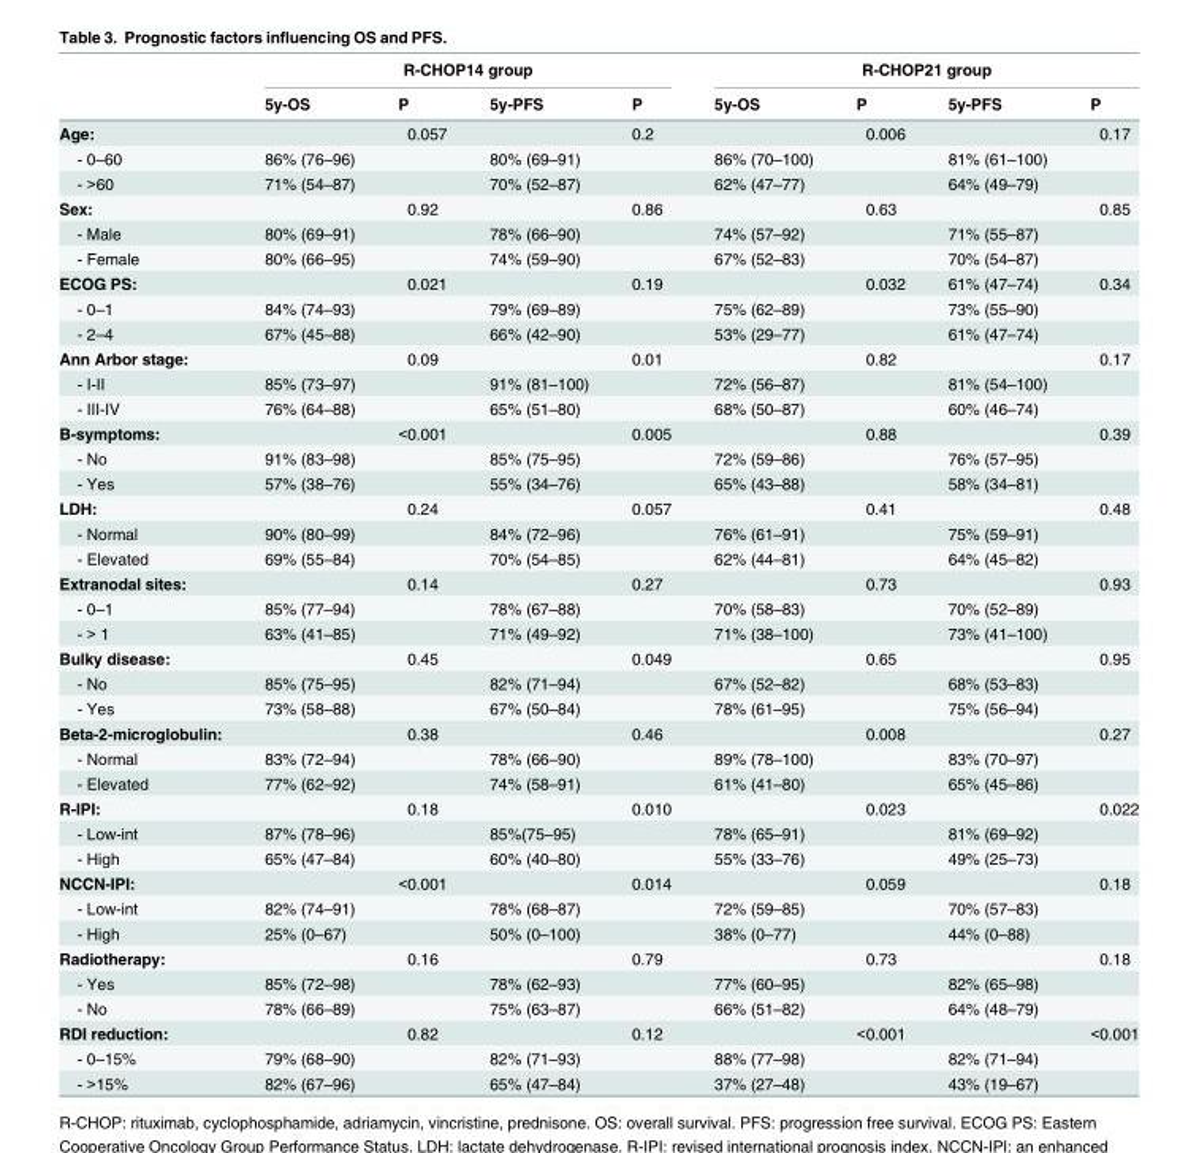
<table><thead><tr><td rowspan="2"></td><td colspan="4">R-CHOP14 group</td><td colspan="4">R-CHOP21 group</td></tr><tr><td>5y-OS</td><td>P</td><td>5y-PFS</td><td>P</td><td>5y-OS</td><td>P</td><td>5y-PFS</td><td>P</td></tr></thead><tbody><tr><td>Age:</td><td></td><td>0.057</td><td></td><td>0.2</td><td></td><td>0.006</td><td></td><td>0.17</td></tr><tr><td>- 0–60</td><td>86% (76–96)</td><td></td><td>80% (69–91)</td><td></td><td>86% (70–100)</td><td></td><td>81% (61–100)</td><td></td></tr><tr><td>- &gt;60</td><td>71% (54–87)</td><td></td><td>70% (52–87)</td><td></td><td>62% (47–77)</td><td></td><td>64% (49–79)</td><td></td></tr><tr><td>Sex:</td><td></td><td>0.92</td><td></td><td>0.86</td><td></td><td>0.63</td><td></td><td>0.85</td></tr><tr><td>- Male</td><td>80% (69–91)</td><td></td><td>78% (66–90)</td><td></td><td>74% (57–92)</td><td></td><td>71% (55–87)</td><td></td></tr><tr><td>- Female</td><td>80% (66–95)</td><td></td><td>74% (59–90)</td><td></td><td>67% (52–83)</td><td></td><td>70% (54–87)</td><td></td></tr><tr><td>ECOG PS:</td><td></td><td>0.021</td><td></td><td>0.19</td><td></td><td>0.032</td><td>61% (47–74)</td><td>0.34</td></tr><tr><td>- 0–1</td><td>84% (74–93)</td><td></td><td>79% (69–89)</td><td></td><td>75% (62–89)</td><td></td><td>73% (55–90)</td><td></td></tr><tr><td>- 2–4</td><td>67% (45–88)</td><td></td><td>66% (42–90)</td><td></td><td>53% (29–77)</td><td></td><td>61% (47–74)</td><td></td></tr><tr><td>Ann Arbor stage:</td><td></td><td>0.09</td><td></td><td>0.01</td><td></td><td>0.82</td><td></td><td>0.17</td></tr><tr><td>- I-II</td><td>85% (73–97)</td><td></td><td>91% (81–100)</td><td></td><td>72% (56–87)</td><td></td><td>81% (54–100)</td><td></td></tr><tr><td>- III-IV</td><td>76% (64–88)</td><td></td><td>65% (51–80)</td><td></td><td>68% (50–87)</td><td></td><td>60% (46–74)</td><td></td></tr><tr><td>B-symptoms:</td><td></td><td>&lt;0.001</td><td></td><td>0.005</td><td></td><td>0.88</td><td></td><td>0.39</td></tr><tr><td>- No</td><td>91% (83–98)</td><td></td><td>85% (75–95)</td><td></td><td>72% (59–86)</td><td></td><td>76% (57–95)</td><td></td></tr><tr><td>- Yes</td><td>57% (38–76)</td><td></td><td>55% (34–76)</td><td></td><td>65% (43–88)</td><td></td><td>58% (34–81)</td><td></td></tr><tr><td>LDH:</td><td></td><td>0.24</td><td></td><td>0.057</td><td></td><td>0.41</td><td></td><td>0.48</td></tr><tr><td>- Normal</td><td>90% (80–99)</td><td></td><td>84% (72–96)</td><td></td><td>76% (61–91)</td><td></td><td>75% (59–91)</td><td></td></tr><tr><td>- Elevated</td><td>69% (55–84)</td><td></td><td>70% (54–85)</td><td></td><td>62% (44–81)</td><td></td><td>64% (45–82)</td><td></td></tr><tr><td>Extranodal sites:</td><td></td><td>0.14</td><td></td><td>0.27</td><td></td><td>0.73</td><td></td><td>0.93</td></tr><tr><td>- 0–1</td><td>85% (77–94)</td><td></td><td>78% (67–88)</td><td></td><td>70% (58–83)</td><td></td><td>70% (52–89)</td><td></td></tr><tr><td>- &gt; 1</td><td>63% (41–85)</td><td></td><td>71% (49–92)</td><td></td><td>71% (38–100)</td><td></td><td>73% (41–100)</td><td></td></tr><tr><td>Bulky disease:</td><td></td><td>0.45</td><td></td><td>0.049</td><td></td><td>0.65</td><td></td><td>0.95</td></tr><tr><td>- No</td><td>85% (75–95)</td><td></td><td>82% (71–94)</td><td></td><td>67% (52–82)</td><td></td><td>68% (53–83)</td><td></td></tr><tr><td>- Yes</td><td>73% (58–88)</td><td></td><td>67% (50–84)</td><td></td><td>78% (61–95)</td><td></td><td>75% (56–94)</td><td></td></tr><tr><td>Beta-2-microglobulin:</td><td></td><td>0.38</td><td></td><td>0.46</td><td></td><td>0.008</td><td></td><td>0.27</td></tr><tr><td>- Normal</td><td>83% (72–94)</td><td></td><td>78% (66–90)</td><td></td><td>89% (78–100)</td><td></td><td>83% (70–97)</td><td></td></tr><tr><td>- Elevated</td><td>77% (62–92)</td><td></td><td>74% (58–91)</td><td></td><td>61% (41–80)</td><td></td><td>65% (45–86)</td><td></td></tr><tr><td>R-IPI:</td><td></td><td>0.18</td><td></td><td>0.010</td><td></td><td>0.023</td><td></td><td>0.022</td></tr><tr><td>- Low-int</td><td>87% (78–96)</td><td></td><td>85%(75–95)</td><td></td><td>78% (65–91)</td><td></td><td>81% (69–92)</td><td></td></tr><tr><td>- High</td><td>65% (47–84)</td><td></td><td>60% (40–80)</td><td></td><td>55% (33–76)</td><td></td><td>49% (25–73)</td><td></td></tr><tr><td>NCCN-IPI:</td><td></td><td>&lt;0.001</td><td></td><td>0.014</td><td></td><td>0.059</td><td></td><td>0.18</td></tr><tr><td>- Low-int</td><td>82% (74–91)</td><td></td><td>78% (68–87)</td><td></td><td>72% (59–85)</td><td></td><td>70% (57–83)</td><td></td></tr><tr><td>- High</td><td>25% (0–67)</td><td></td><td>50% (0–100)</td><td></td><td>38% (0–77)</td><td></td><td>44% (0–88)</td><td></td></tr><tr><td>Radiotherapy:</td><td></td><td>0.16</td><td></td><td>0.79</td><td></td><td>0.73</td><td></td><td>0.18</td></tr><tr><td>- Yes</td><td>85% (72–98)</td><td></td><td>78% (62–93)</td><td></td><td>77% (60–95)</td><td></td><td>82% (65–98)</td><td></td></tr><tr><td>- No</td><td>78% (66–89)</td><td></td><td>75% (63–87)</td><td></td><td>66% (51–82)</td><td></td><td>64% (48–79)</td><td></td></tr><tr><td>RDI reduction:</td><td></td><td>0.82</td><td></td><td>0.12</td><td></td><td>&lt;0.001</td><td></td><td>&lt;0.001</td></tr><tr><td>- 0–15%</td><td>79% (68–90)</td><td></td><td>82% (71–93)</td><td></td><td>88% (77–98)</td><td></td><td>82% (71–94)</td><td></td></tr><tr><td>- &gt;15%</td><td>82% (67–96)</td><td></td><td>65% (47–84)</td><td></td><td>37% (27–48)</td><td></td><td>43% (19–67)</td><td></td></tr></tbody></table>